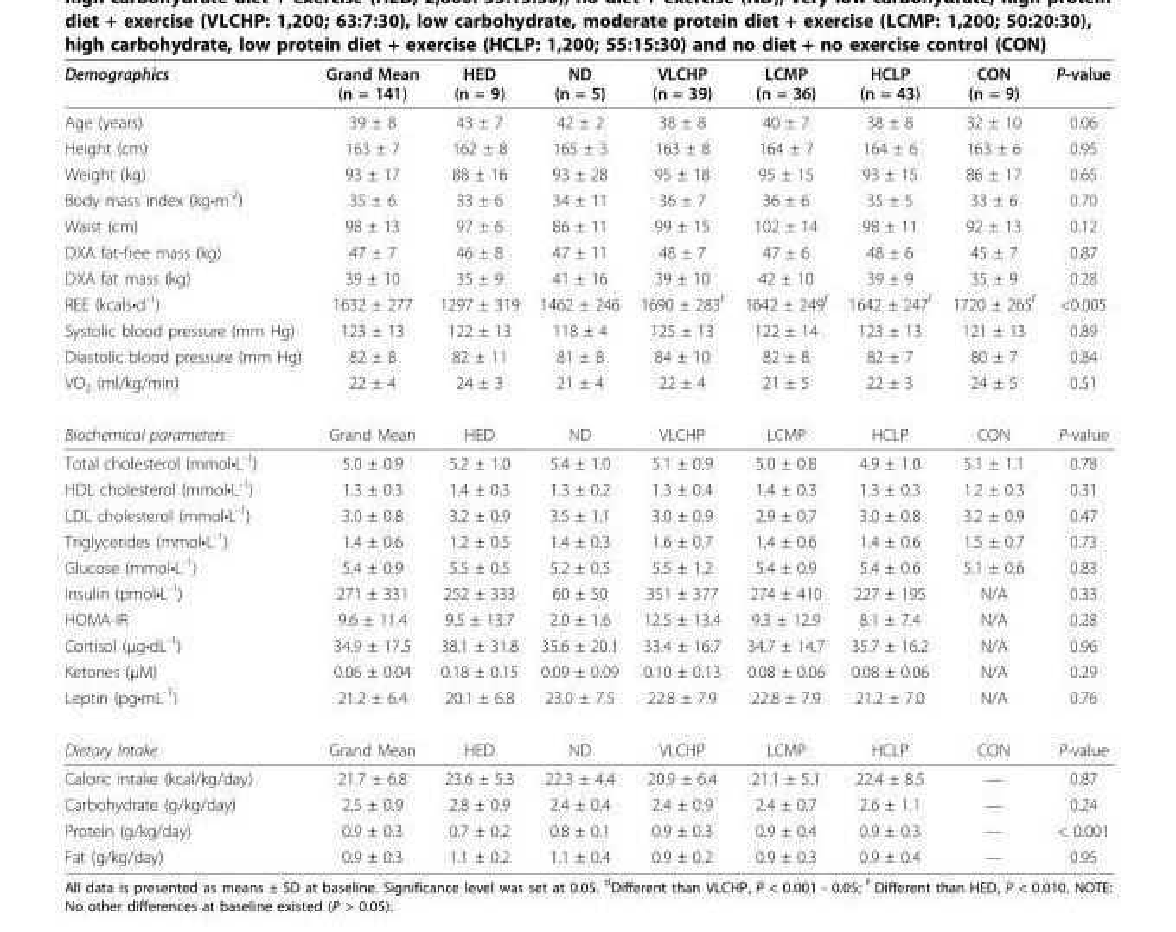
<table><thead><tr><td>Demographics</td><td>Grand Mean (n = 141)</td><td>HED (n = 9)</td><td>ND (n = 5)</td><td>VLCHP (n = 39)</td><td>LCMP (n = 36)</td><td>HCLP (n = 43)</td><td>CON (n = 9)</td><td>P-value</td></tr></thead><tbody><tr><td>Age (years)</td><td>39 ± 8</td><td>43 ± 7</td><td>42 ± 2</td><td>38 ± 8</td><td>40 ± 7</td><td>38 ± 8</td><td>32 ± 10</td><td>0.06</td></tr><tr><td>Height (cm)</td><td>163 ± 7</td><td>162 ± 8</td><td>165 ± 3</td><td>163 ± 8</td><td>164 ± 7</td><td>164 ± 6</td><td>163 ± 6</td><td>0.95</td></tr><tr><td>Weight (kg)</td><td>93 ± 17</td><td>88 ± 16</td><td>93 ± 28</td><td>95 ± 18</td><td>95 ± 15</td><td>93 ± 15</td><td>86 ± 17</td><td>0.65</td></tr><tr><td>Body mass index (kg•m<sup>-2</sup>)</td><td>35 ± 6</td><td>33 ± 6</td><td>34 ± 11</td><td>36 ± 7</td><td>36 ± 6</td><td>35 ± 5</td><td>33 ± 6</td><td>0.70</td></tr><tr><td>Waist (cm)</td><td>98 ± 13</td><td>97 ± 6</td><td>86 ± 11</td><td>99 ± 15</td><td>102 ± 14</td><td>98 ± 11</td><td>92 ± 13</td><td>0.12</td></tr><tr><td>DXA fat-free mass (kg)</td><td>47 ± 7</td><td>46 ± 8</td><td>47 ± 11</td><td>48 ± 7</td><td>47 ± 6</td><td>48 ± 6</td><td>45 ± 7</td><td>0.87</td></tr><tr><td>DXA fat mass (kg)</td><td>39 ± 10</td><td>35 ± 9</td><td>41 ± 16</td><td>39 ± 10</td><td>42 ± 10</td><td>39 ± 9</td><td>35 ± 9</td><td>0.28</td></tr><tr><td>REE (kcals•d<sup>-1</sup>)</td><td>1632 ± 277</td><td>1297 ± 319</td><td>1462 ± 246</td><td>1690 ± 283<sup>f</sup></td><td>1642 ± 249<sup>f</sup></td><td>1642 ± 247<sup>f</sup></td><td>1720 ± 265<sup>f</sup></td><td>&lt;0.005</td></tr><tr><td>Systolic blood pressure (mm Hg)</td><td>123 ± 13</td><td>122 ± 13</td><td>118 ± 4</td><td>125 ± 13</td><td>122 ± 14</td><td>123 ± 13</td><td>121 ± 13</td><td>0.89</td></tr><tr><td>Diastolic blood pressure (mm Hg)</td><td>82 ± 8</td><td>82 ± 11</td><td>81 ± 8</td><td>84 ± 10</td><td>82 ± 8</td><td>82 ± 7</td><td>80 ± 7</td><td>0.84</td></tr><tr><td>VO<sub>2</sub> (ml/kg/min)</td><td>22 ± 4</td><td>24 ± 3</td><td>21 ± 4</td><td>22 ± 4</td><td>21 ± 5</td><td>22 ± 3</td><td>24 ± 5</td><td>0.51</td></tr><tr><td>Biochemical parameters</td><td>Grand Mean</td><td>HED</td><td>ND</td><td>VLCHP</td><td>LCMP</td><td>HCLP</td><td>CON</td><td>P-value</td></tr><tr><td>Total cholesterol (mmol•L<sup>-1</sup>)</td><td>5.0 ± 0.9</td><td>5.2 ± 1.0</td><td>5.4 ± 1.0</td><td>5.1 ± 0.9</td><td>5.0 ± 0.8</td><td>4.9 ± 1.0</td><td>5.1 ± 1.1</td><td>0.78</td></tr><tr><td>HDL cholesterol (mmol•L<sup>-1</sup>)</td><td>1.3 ± 0.3</td><td>1.4 ± 0.3</td><td>1.3 ± 0.2</td><td>1.3 ± 0.4</td><td>1.4 ± 0.3</td><td>1.3 ± 0.3</td><td>1.2 ± 0.3</td><td>0.31</td></tr><tr><td>LDL cholesterol (mmol•L<sup>-1</sup>)</td><td>3.0 ± 0.8</td><td>3.2 ± 0.9</td><td>3.5 ± 1.1</td><td>3.0 ± 0.9</td><td>2.9 ± 0.7</td><td>3.0 ± 0.8</td><td>3.2 ± 0.9</td><td>0.47</td></tr><tr><td>Triglycerides (mmol•L<sup>-1</sup>)</td><td>1.4 ± 0.6</td><td>1.2 ± 0.5</td><td>1.4 ± 0.3</td><td>1.6 ± 0.7</td><td>1.4 ± 0.6</td><td>1.4 ± 0.6</td><td>1.5 ± 0.7</td><td>0.73</td></tr><tr><td>Glucose (mmol•L<sup>-1</sup>)</td><td>5.4 ± 0.9</td><td>5.5 ± 0.5</td><td>5.2 ± 0.5</td><td>5.5 ± 1.2</td><td>5.4 ± 0.9</td><td>5.4 ± 0.6</td><td>5.1 ± 0.6</td><td>0.83</td></tr><tr><td>Insulin (pmol•L<sup>-1</sup>)</td><td>271 ± 331</td><td>252 ± 333</td><td>60 ± 50</td><td>351 ± 377</td><td>274 ± 410</td><td>227 ± 195</td><td>N/A</td><td>0.33</td></tr><tr><td>HOMA-IR</td><td>9.6 ± 11.4</td><td>9.5 ± 13.7</td><td>2.0 ± 1.6</td><td>12.5 ± 13.4</td><td>9.3 ± 12.9</td><td>8.1 ± 7.4</td><td>N/A</td><td>0.28</td></tr><tr><td>Cortisol (μg•dL<sup>-1</sup>)</td><td>34.9 ± 17.5</td><td>38.1 ± 31.8</td><td>35.6 ± 20.1</td><td>33.4 ± 16.7</td><td>34.7 ± 14.7</td><td>35.7 ± 16.2</td><td>N/A</td><td>0.96</td></tr><tr><td>Ketones (μM)</td><td>0.06 ± 0.04</td><td>0.18 ± 0.15</td><td>0.09 ± 0.09</td><td>0.10 ± 0.13</td><td>0.08 ± 0.06</td><td>0.08 ± 0.06</td><td>N/A</td><td>0.29</td></tr><tr><td>Leptin (pg•mL<sup>-1</sup>)</td><td>21.2 ± 6.4</td><td>20.1 ± 6.8</td><td>23.0 ± 7.5</td><td>22.8 ± 7.9</td><td>22.8 ± 7.9</td><td>21.2 ± 7.0</td><td>N/A</td><td>0.76</td></tr><tr><td>Dietary Intake</td><td>Grand Mean</td><td>HED</td><td>ND</td><td>VLCHP</td><td>LCMP</td><td>HCLP</td><td>CON</td><td>P-value</td></tr><tr><td>Caloric intake (kcal/kg/day)</td><td>21.7 ± 6.8</td><td>23.6 ± 5.3</td><td>22.3 ± 4.4</td><td>20.9 ± 6.4</td><td>21.1 ± 5.1</td><td>22.4 ± 8.5</td><td>—</td><td>0.87</td></tr><tr><td>Carbohydrate (g/kg/day)</td><td>2.5 ± 0.9</td><td>2.8 ± 0.9</td><td>2.4 ± 0.4</td><td>2.4 ± 0.9</td><td>2.4 ± 0.7</td><td>2.6 ± 1.1</td><td>—</td><td>0.24</td></tr><tr><td>Protein (g/kg/day)</td><td>0.9 ± 0.3</td><td>0.7 ± 0.2</td><td>0.8 ± 0.1</td><td>0.9 ± 0.3</td><td>0.9 ± 0.4</td><td>0.9 ± 0.3</td><td>—</td><td>&lt; 0.001</td></tr><tr><td>Fat (g/kg/day)</td><td>0.9 ± 0.3</td><td>1.1 ± 0.2</td><td>1.1 ± 0.4</td><td>0.9 ± 0.2</td><td>0.9 ± 0.3</td><td>0.9 ± 0.4</td><td>—</td><td>0.95</td></tr></tbody></table>